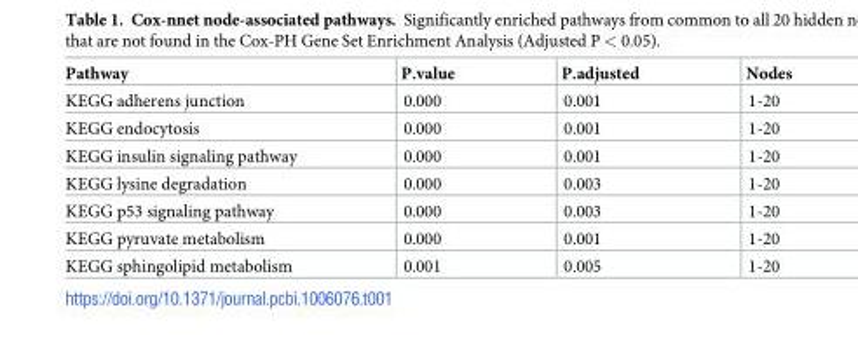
<table><thead><tr><td>Pathway</td><td>P.value</td><td>P.adjusted</td><td>Nodes</td></tr></thead><tbody><tr><td>KEGG adherens junction</td><td>0.000</td><td>0.001</td><td>1-20</td></tr><tr><td>KEGG endocytosis</td><td>0.000</td><td>0.001</td><td>1-20</td></tr><tr><td>KEGG insulin signaling pathway</td><td>0.000</td><td>0.001</td><td>1-20</td></tr><tr><td>KEGG lysine degradation</td><td>0.000</td><td>0.003</td><td>1-20</td></tr><tr><td>KEGG p53 signaling pathway</td><td>0.000</td><td>0.003</td><td>1-20</td></tr><tr><td>KEGG pyruvate metabolism</td><td>0.000</td><td>0.001</td><td>1-20</td></tr><tr><td>KEGG sphingolipid metabolism</td><td>0.001</td><td>0.005</td><td>1-20</td></tr></tbody></table>